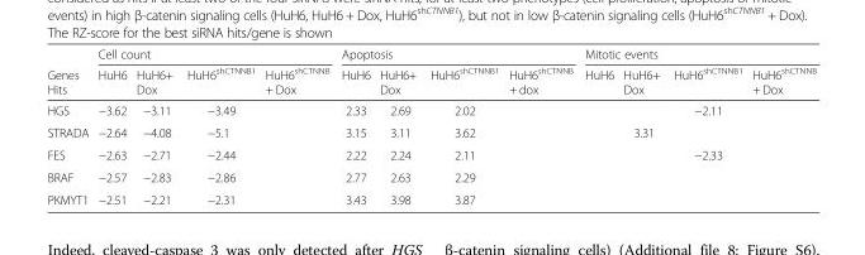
<table><thead><tr><td rowspan="2">Genes Hits</td><td colspan="4">Cell count</td><td colspan="4">Apoptosis</td><td colspan="4">Mitotic events</td></tr><tr><td>HuH6</td><td>HuH6+ Dox</td><td>HuH6<sup>shCTNNB1</sup></td><td>HuH6<sup>shCTNNB</sup> + Dox</td><td>HuH6</td><td>HuH6+ Dox</td><td>HuH6<sup>shCTNNB1</sup></td><td>HuH6<sup>shCTNNB</sup> + dox</td><td>HuH6</td><td>HuH6+ Dox</td><td>HuH6<sup>shCTNNB1</sup></td><td>HuH6<sup>shCTNNB</sup> + Dox</td></tr></thead><tbody><tr><td>HGS</td><td>−3.62</td><td>−3.11</td><td>−3.49</td><td></td><td>2.33</td><td>2.69</td><td>2.02</td><td></td><td></td><td></td><td>−2.11</td><td></td></tr><tr><td>STRADA</td><td>−2.64</td><td>−4.08</td><td>−5.1</td><td></td><td>3.15</td><td>3.11</td><td>3.62</td><td></td><td></td><td>3.31</td><td></td><td></td></tr><tr><td>FES</td><td>−2.63</td><td>−2.71</td><td>−2.44</td><td></td><td>2.22</td><td>2.24</td><td>2.11</td><td></td><td></td><td></td><td>−2.33</td><td></td></tr><tr><td>BRAF</td><td>−2.57</td><td>−2.83</td><td>−2.86</td><td></td><td>2.77</td><td>2.63</td><td>2.29</td><td></td><td></td><td></td><td></td><td></td></tr><tr><td>PKMYT1</td><td>−2.51</td><td>−2.21</td><td>−2.31</td><td></td><td>3.43</td><td>3.98</td><td>3.87</td><td></td><td></td><td></td><td></td><td></td></tr></tbody></table>